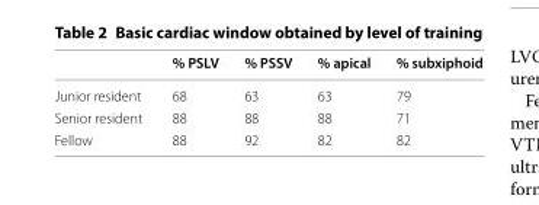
<table><thead><tr><td></td><td>% PSLV</td><td>% PSSV</td><td>% apical</td><td>% subxiphoid</td></tr></thead><tbody><tr><td>Junior resident</td><td>68</td><td>63</td><td>63</td><td>79</td></tr><tr><td>Senior resident</td><td>88</td><td>88</td><td>88</td><td>71</td></tr><tr><td>Fellow</td><td>88</td><td>92</td><td>82</td><td>82</td></tr></tbody></table>